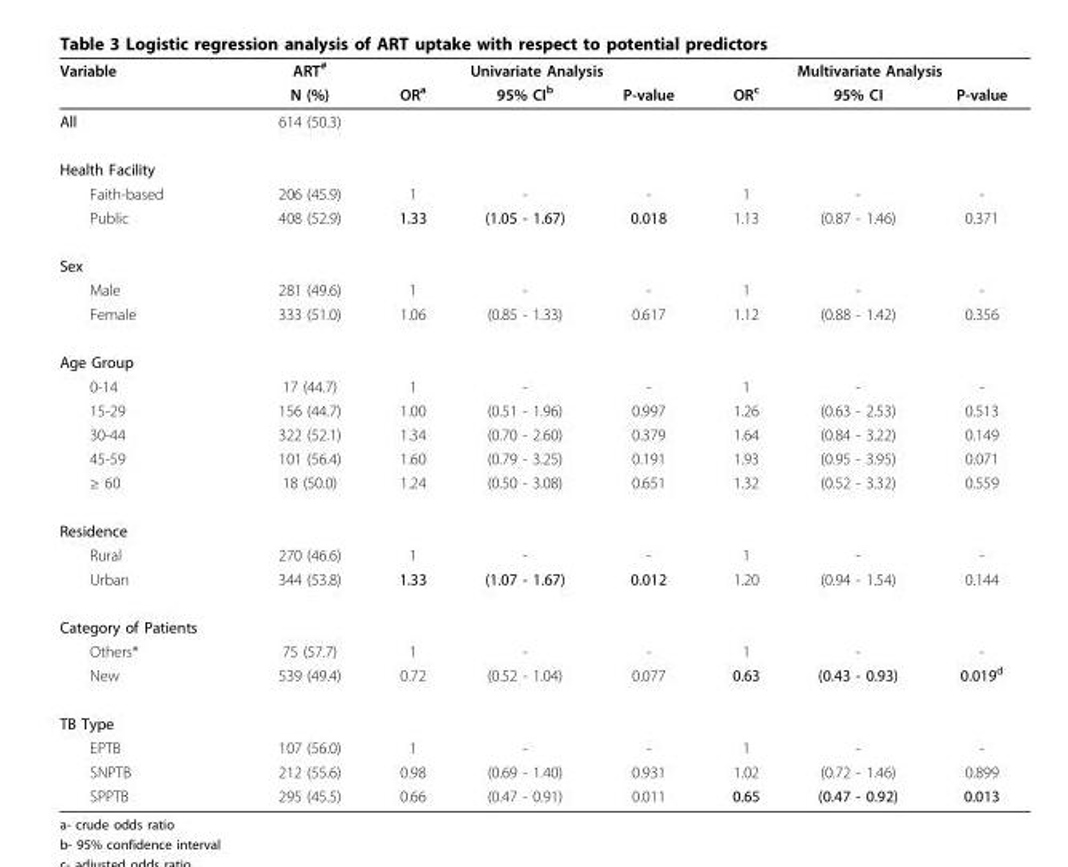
<table><thead><tr><td rowspan="2">Variable</td><td rowspan="2">ART<sup>#</sup> N (%)</td><td colspan="3">Univariate Analysis</td><td colspan="3">Multivariate Analysis</td></tr><tr><td>OR<sup>a</sup></td><td>95% CI<sup>b</sup></td><td>P-value</td><td>OR<sup>c</sup></td><td>95% CI</td><td>P-value</td></tr></thead><tbody><tr><td>All</td><td>614 (50.3)</td><td></td><td></td><td></td><td></td><td></td><td></td></tr><tr><td colspan="8">Health Facility</td></tr><tr><td>Faith-based</td><td>206 (45.9)</td><td>1</td><td>-</td><td>-</td><td>1</td><td>-</td><td>-</td></tr><tr><td>Public</td><td>408 (52.9)</td><td>1.33</td><td>(1.05 - 1.67)</td><td>0.018</td><td>1.13</td><td>(0.87 - 1.46)</td><td>0.371</td></tr><tr><td colspan="8">Sex</td></tr><tr><td>Male</td><td>281 (49.6)</td><td>1</td><td>-</td><td>-</td><td>1</td><td>-</td><td>-</td></tr><tr><td>Female</td><td>333 (51.0)</td><td>1.06</td><td>(0.85 - 1.33)</td><td>0.617</td><td>1.12</td><td>(0.88 - 1.42)</td><td>0.356</td></tr><tr><td colspan="8">Age Group</td></tr><tr><td>0-14</td><td>17 (44.7)</td><td>1</td><td>-</td><td>-</td><td>1</td><td>-</td><td>-</td></tr><tr><td>15-29</td><td>156 (44.7)</td><td>1.00</td><td>(0.51 - 1.96)</td><td>0.997</td><td>1.26</td><td>(0.63 - 2.53)</td><td>0.513</td></tr><tr><td>30-44</td><td>322 (52.1)</td><td>1.34</td><td>(0.70 - 2.60)</td><td>0.379</td><td>1.64</td><td>(0.84 - 3.22)</td><td>0.149</td></tr><tr><td>45-59</td><td>101 (56.4)</td><td>1.60</td><td>(0.79 - 3.25)</td><td>0.191</td><td>1.93</td><td>(0.95 - 3.95)</td><td>0.071</td></tr><tr><td>≥ 60</td><td>18 (50.0)</td><td>1.24</td><td>(0.50 - 3.08)</td><td>0.651</td><td>1.32</td><td>(0.52 - 3.32)</td><td>0.559</td></tr><tr><td colspan="8">Residence</td></tr><tr><td>Rural</td><td>270 (46.6)</td><td>1</td><td>-</td><td>-</td><td>1</td><td>-</td><td>-</td></tr><tr><td>Urban</td><td>344 (53.8)</td><td>1.33</td><td>(1.07 - 1.67)</td><td>0.012</td><td>1.20</td><td>(0.94 - 1.54)</td><td>0.144</td></tr><tr><td colspan="8">Category of Patients</td></tr><tr><td>Others*</td><td>75 (57.7)</td><td>1</td><td>-</td><td>-</td><td>1</td><td>-</td><td>-</td></tr><tr><td>New</td><td>539 (49.4)</td><td>0.72</td><td>(0.52 - 1.04)</td><td>0.077</td><td>0.63</td><td>(0.43 - 0.93)</td><td>0.019<sup>d</sup></td></tr><tr><td colspan="8">TB Type</td></tr><tr><td>EPTB</td><td>107 (56.0)</td><td>1</td><td>-</td><td>-</td><td>1</td><td>-</td><td>-</td></tr><tr><td>SNPTB</td><td>212 (55.6)</td><td>0.98</td><td>(0.69 - 1.40)</td><td>0.931</td><td>1.02</td><td>(0.72 - 1.46)</td><td>0.899</td></tr><tr><td>SPPTB</td><td>295 (45.5)</td><td>0.66</td><td>(0.47 - 0.91)</td><td>0.011</td><td>0.65</td><td>(0.47 - 0.92)</td><td>0.013</td></tr></tbody></table>